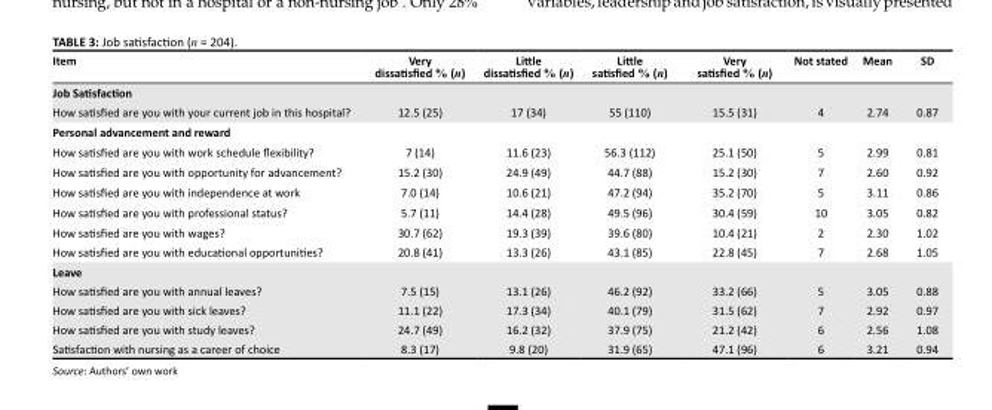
<table><thead><tr><td>Item</td><td>Very dissatisfied % (n)</td><td>Little dissatisfied % (n)</td><td>Little satisfied % (n)</td><td>Very satisfied % (n)</td><td>Not stated</td><td>Mean</td><td>SD</td></tr></thead><tbody><tr><td colspan="8">Job Satisfaction</td></tr><tr><td>How satisfied are you with your current job in this hospital?</td><td>12.5 (25)</td><td>17 (34)</td><td>55 (110)</td><td>15.5 (31)</td><td>4</td><td>2.74</td><td>0.87</td></tr><tr><td colspan="8">Personal advancement and reward</td></tr><tr><td>How satisfied are you with work schedule flexibility?</td><td>7 (14)</td><td>11.6 (23)</td><td>56.3 (112)</td><td>25.1 (50)</td><td>5</td><td>2.99</td><td>0.81</td></tr><tr><td>How satisfied are you with opportu nity for advance ment?</td><td>15.2 (30)</td><td>24.9 (49)</td><td>44.7 (88)</td><td>15.2 (30)</td><td>7</td><td>2.60</td><td>0.92</td></tr><tr><td>How satisfied are you with indepen dence at work</td><td>7.0 (14)</td><td>10.6 (21)</td><td>47.2 (94)</td><td>35.2 (70)</td><td>5</td><td>3.11</td><td>0.86</td></tr><tr><td>How satisfied are you with profes sional status?</td><td>5.7 (11)</td><td>14.4 (28)</td><td>49.5 (96)</td><td>30.4 (59)</td><td>10</td><td>3.05</td><td>0.82</td></tr><tr><td>How satisfied are you with wages?</td><td>30.7 (62)</td><td>19.3 (39)</td><td>39.6 (80)</td><td>10.4 (21)</td><td>2</td><td>2.30</td><td>1.02</td></tr><tr><td>How satisfied are you with educational opportunities?</td><td>20.8 (41)</td><td>13.3 (26)</td><td>43.1 (85)</td><td>22.8 (45)</td><td>7</td><td>2.68</td><td>1.05</td></tr><tr><td colspan="8">Leave</td></tr><tr><td>How satisfied are you with annual leaves?</td><td>7.5 (15)</td><td>13.1 (26)</td><td>46.2 (92)</td><td>33.2 (66)</td><td>5</td><td>3.05</td><td>0.88</td></tr><tr><td>How satisfied are you with sick leaves?</td><td>11.1 (22)</td><td>17.3 (34)</td><td>40.1 (79)</td><td>31.5 (62)</td><td>7</td><td>2.92</td><td>0.97</td></tr><tr><td>How satisfied are you with study leaves?</td><td>24.7 (49)</td><td>16.2 (32)</td><td>37.9 (75)</td><td>21.2 (42)</td><td>6</td><td>2.56</td><td>1.08</td></tr><tr><td>Satisfaction with nursing as a career of choice</td><td>8.3 (17)</td><td>9.8 (20)</td><td>31.9 (65)</td><td>47.1 (96)</td><td>6</td><td>3.21</td><td>0.94</td></tr></tbody></table>